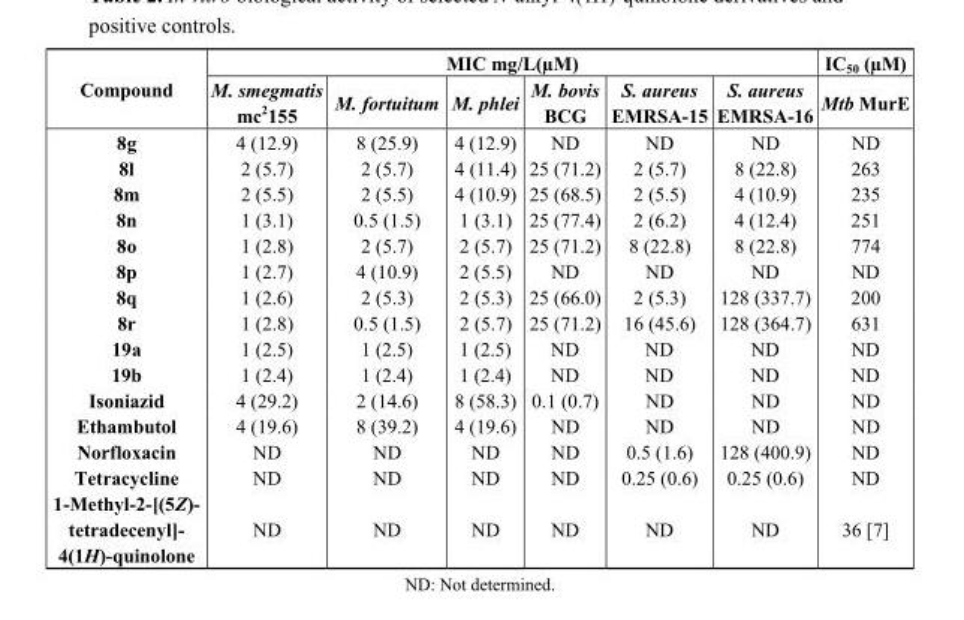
<table><thead><tr><td rowspan="2">Compound</td><td colspan="6">MIC mg/L(µM)</td><td rowspan="2">IC<sub>50</sub> (µM) Mtb MurE</td></tr><tr><td>M. smegmatis mc<sup>2</sup>155</td><td>M. fortuitum</td><td>M. phlei</td><td>M. bovis BCG</td><td>S. aureus EMRSA-15</td><td>S. aureus EMRSA-16</td></tr></thead><tbody><tr><td>8g</td><td>4 (12.9)</td><td>8 (25.9)</td><td>4 (12.9)</td><td>ND</td><td>ND</td><td>ND</td><td>ND</td></tr><tr><td>8l</td><td>2 (5.7)</td><td>2 (5.7)</td><td>4 (11.4)</td><td>25 (71.2)</td><td>2 (5.7)</td><td>8 (22.8)</td><td>263</td></tr><tr><td>8m</td><td>2 (5.5)</td><td>2 (5.5)</td><td>4 (10.9)</td><td>25 (68.5)</td><td>2 (5.5)</td><td>4 (10.9)</td><td>235</td></tr><tr><td>8n</td><td>1 (3.1)</td><td>0.5 (1.5)</td><td>1 (3.1)</td><td>25 (77.4)</td><td>2 (6.2)</td><td>4 (12.4)</td><td>251</td></tr><tr><td>8o</td><td>1 (2.8)</td><td>2 (5.7)</td><td>2 (5.7)</td><td>25 (71.2)</td><td>8 (22.8)</td><td>8 (22.8)</td><td>774</td></tr><tr><td>8p</td><td>1 (2.7)</td><td>4 (10.9)</td><td>2 (5.5)</td><td>ND</td><td>ND</td><td>ND</td><td>ND</td></tr><tr><td>8q</td><td>1 (2.6)</td><td>2 (5.3)</td><td>2 (5.3)</td><td>25 (66.0)</td><td>2 (5.3)</td><td>128 (337.7)</td><td>200</td></tr><tr><td>8r</td><td>1 (2.8)</td><td>0.5 (1.5)</td><td>2 (5.7)</td><td>25 (71.2)</td><td>16 (45.6)</td><td>128 (364.7)</td><td>631</td></tr><tr><td>19a</td><td>1 (2.5)</td><td>1 (2.5)</td><td>1 (2.5)</td><td>ND</td><td>ND</td><td>ND</td><td>ND</td></tr><tr><td>19b</td><td>1 (2.4)</td><td>1 (2.4)</td><td>1 (2.4)</td><td>ND</td><td>ND</td><td>ND</td><td>ND</td></tr><tr><td>Isoniazid</td><td>4 (29.2)</td><td>2 (14.6)</td><td>8 (58.3)</td><td>0.1 (0.7)</td><td>ND</td><td>ND</td><td>ND</td></tr><tr><td>Ethambutol</td><td>4 (19.6)</td><td>8 (39.2)</td><td>4 (19.6)</td><td>ND</td><td>ND</td><td>ND</td><td>ND</td></tr><tr><td>Norfloxacin</td><td>ND</td><td>ND</td><td>ND</td><td>ND</td><td>0.5 (1.6)</td><td>128 (400.9)</td><td>ND</td></tr><tr><td>Tetracycline</td><td>ND</td><td>ND</td><td>ND</td><td>ND</td><td>0.25 (0.6)</td><td>0.25 (0.6)</td><td>ND</td></tr><tr><td>1-Methyl-2-[(5Z)- tetradecenyl]- 4(1H)-quinolone</td><td>ND</td><td>ND</td><td>ND</td><td>ND</td><td>ND</td><td>ND</td><td>36 [7]</td></tr></tbody></table>